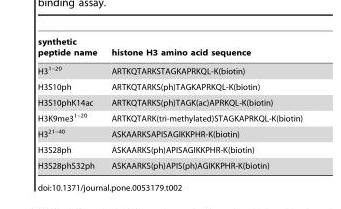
<table><thead><tr><td>synthetic peptide name</td><td>histone H3 amino acid sequence</td></tr></thead><tbody><tr><td>H3<sup>1–20</sup></td><td>ARTKQTARKSTAGKAPRKQL-K(biotin)</td></tr><tr><td>H3S10ph</td><td>ARTKQTARKS(ph)TAGKAPRKQL-K(biotin)</td></tr><tr><td>H3S10phK14ac</td><td>ARTKQTARKS(ph)TAGK(ac)APRKQL-K(biotin)</td></tr><tr><td>H3K9me3<sup>1–20</sup></td><td>ARTKQTARK(tri-methylated)STAGKAPRKQL-K(biotin)</td></tr><tr><td>H3<sup>21–40</sup></td><td>ASKAARKSAPISAGIKKPHR-K(biotin)</td></tr><tr><td>H3S28ph</td><td>ASKAARKS(ph)APISAGIKKPHR-K(biotin)</td></tr><tr><td>H3S28phS32ph</td><td>ASKAARKS(ph)APIS(ph)AGIKKPHR-K(biotin)</td></tr></tbody></table>